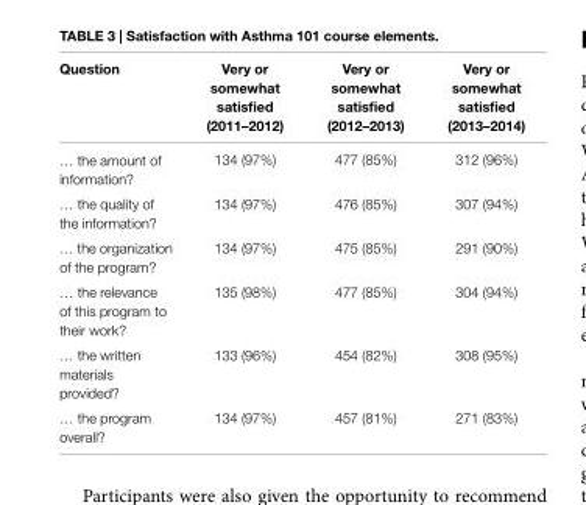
<table><thead><tr><td>Question</td><td>Very or somewhat satisfied (2011–2012)</td><td>Very or somewhat satisfied (2012–2013)</td><td>Very or somewhat satisfied (2013–2014)</td></tr></thead><tbody><tr><td>… the amount of information?</td><td>134 (97%)</td><td>477 (85%)</td><td>312 (96%)</td></tr><tr><td>… the quality of the information?</td><td>134 (97%)</td><td>476 (85%)</td><td>307 (94%)</td></tr><tr><td>… the organization of the program?</td><td>134 (97%)</td><td>475 (85%)</td><td>291 (90%)</td></tr><tr><td>… the relevance of this program to their work?</td><td>135 (98%)</td><td>477 (85%)</td><td>304 (94%)</td></tr><tr><td>… the written materials provided?</td><td>133 (96%)</td><td>454 (82%)</td><td>308 (95%)</td></tr><tr><td>… the program overall?</td><td>134 (97%)</td><td>457 (81%)</td><td>271 (83%)</td></tr></tbody></table>